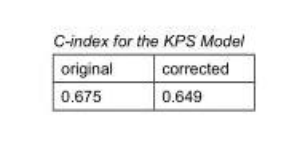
<table><tbody><tr><td>original</td><td>corrected</td></tr><tr><td>0.675</td><td>0.649</td></tr></tbody></table>